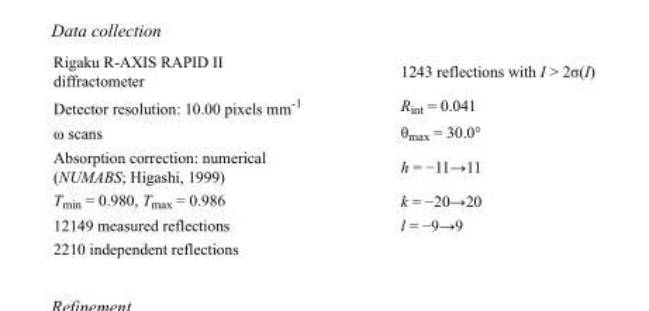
<table><tbody><tr><td>Rigaku R-AXIS RAPID II diffractometer</td><td>1243 reflections with I &gt; 2σ(I)</td></tr><tr><td>Detector resolution: 10.00 pixels mm<sup>-1</sup></td><td>R<sub>int</sub> = 0.041</td></tr><tr><td>ω scans</td><td>θ<sub>max</sub> = 30.0°</td></tr><tr><td>Absorption correction: numerical (NUMABS; Higashi, 1999)</td><td>h = −11→11</td></tr><tr><td>T<sub>min</sub> = 0.980, T<sub>max</sub> = 0.986</td><td>k = −20→20</td></tr><tr><td>12149 measured reflections</td><td>l = −9→9</td></tr><tr><td>2210 independent reflections</td><td></td></tr></tbody></table>